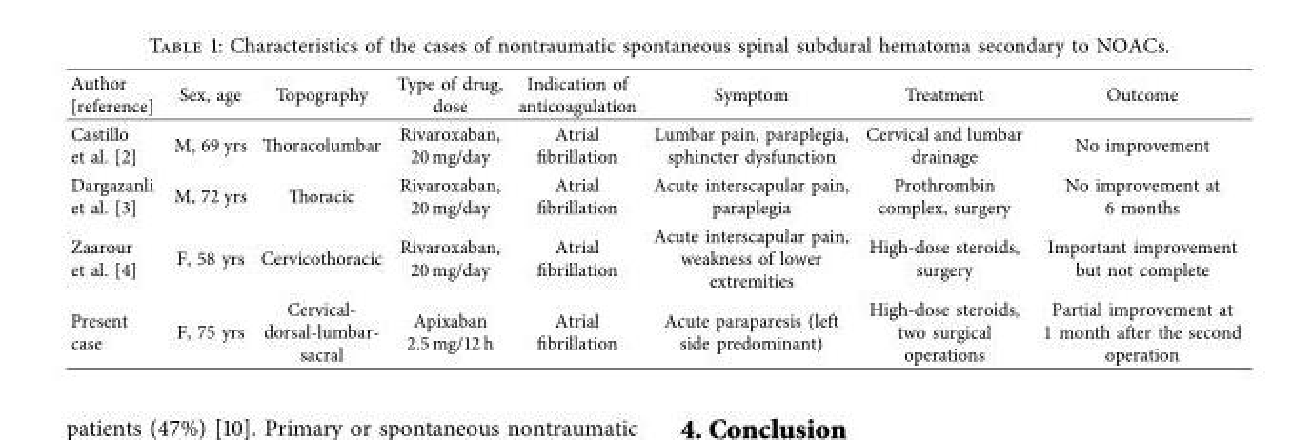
<table><thead><tr><td>Author [reference]</td><td>Sex, age</td><td>Topography</td><td>Type of drug, dose</td><td>Indication of anticoagulation</td><td>Symptom</td><td>Treatment</td><td>Outcome</td></tr></thead><tbody><tr><td>Castillo et al. [2]</td><td>M, 69 yrs</td><td>Toracolumbar</td><td>Rivaroxaban, 20 mg/day</td><td>Atrial fbrillation</td><td>Lumbar pain, paraplegia, sphincter dysfunction</td><td>Cervical and lumbar drainage</td><td>No improvement</td></tr><tr><td>Dargazanli et al. [3]</td><td>M, 72 yrs</td><td>Toracic</td><td>Rivaroxaban, 20 mg/day</td><td>Atrial fbrillation</td><td>Acute interscapular pain, paraplegia</td><td>Prothrombin complex, surgery</td><td>No improvement at 6 months</td></tr><tr><td>Zaarour et al. [4]</td><td>F, 58 yrs</td><td>Cervicothoracic</td><td>Rivaroxaban, 20 mg/day</td><td>Atrial fbrillation</td><td>Acute interscapular pain, weakness of lower extremities</td><td>High-dose steroids, surgery</td><td>Important improvement but not complete</td></tr><tr><td>Present case</td><td>F, 75 yrs</td><td>Cervical- dorsal-lumbar- sacral</td><td>Apixaban 2.5 mg/12 h</td><td>Atrial fbrillation</td><td>Acute paraparesis (left side predominant)</td><td>High-dose steroids, two surgical operations</td><td>Partial improvement at 1 month after the second operation</td></tr></tbody></table>